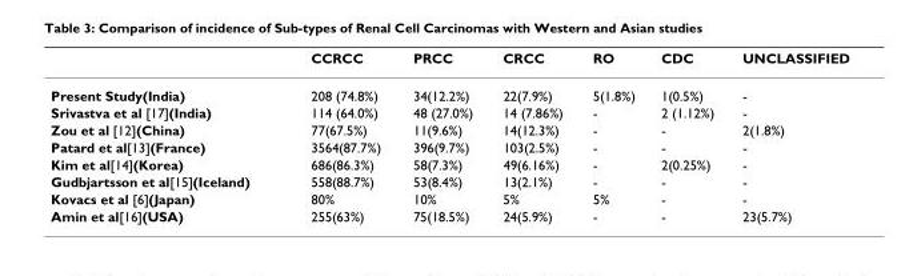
<table><thead><tr><td></td><td>CCRCC</td><td>PRCC</td><td>CRCC</td><td>RO</td><td>CDC</td><td>UNCLASSIFIED</td></tr></thead><tbody><tr><td>Present Study(India)</td><td>208 (74.8%)</td><td>34(12.2%)</td><td>22(7.9%)</td><td>5(1.8%)</td><td>1(0.5%)</td><td>-</td></tr><tr><td>Srivastva et al [17](India)</td><td>114 (64.0%)</td><td>48 (27.0%)</td><td>14 (7.86%)</td><td>-</td><td>2 (1.12%)</td><td>-</td></tr><tr><td>Zou et al [12](China)</td><td>77(67.5%)</td><td>11(9.6%)</td><td>14(12.3%)</td><td>-</td><td>-</td><td>2(1.8%)</td></tr><tr><td>Patard et al[13](France)</td><td>3564(87.7%)</td><td>396(9.7%)</td><td>103(2.5%)</td><td>-</td><td>-</td><td>-</td></tr><tr><td>Kim et al[14](Korea)</td><td>686(86.3%)</td><td>58(7.3%)</td><td>49(6.16%)</td><td>-</td><td>2(0.25%)</td><td>-</td></tr><tr><td>Gudbjartsson et al[15](Iceland)</td><td>558(88.7%)</td><td>53(8.4%)</td><td>13(2.1%)</td><td>-</td><td>-</td><td>-</td></tr><tr><td>Kovacs et al [6](Japan)</td><td>80%</td><td>10%</td><td>5%</td><td>5%</td><td>-</td><td>-</td></tr><tr><td>Amin et al[16](USA)</td><td>255(63%)</td><td>75(18.5%)</td><td>24(5.9%)</td><td>-</td><td>-</td><td>23(5.7%)</td></tr></tbody></table>